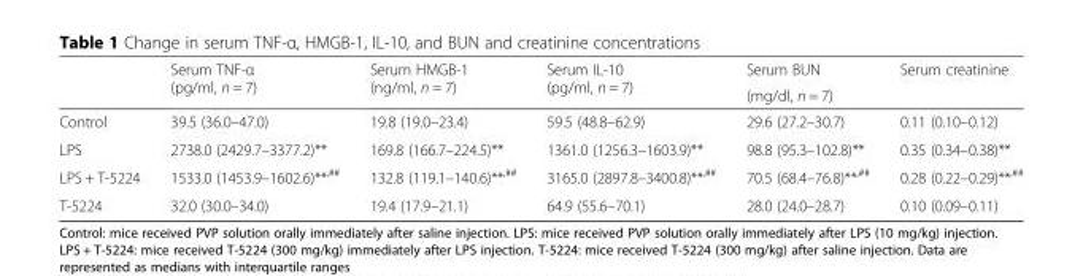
<table><thead><tr><td rowspan="2"></td><td rowspan="2">Serum TNF-α (pg/ml, n = 7)</td><td rowspan="2">Serum HMGB-1 (ng/ml, n = 7)</td><td rowspan="2">Serum IL-10 (pg/ml, n = 7)</td><td>Serum BUN</td><td>Serum creatinine</td></tr><tr><td colspan="2">(mg/dl, n = 7)</td></tr></thead><tbody><tr><td>Control</td><td>39.5 (36.0–47.0)</td><td>19.8 (19.0–23.4)</td><td>59.5 (48.8–62.9)</td><td>29.6 (27.2–30.7)</td><td>0.11 (0.10–0.12)</td></tr><tr><td>LPS</td><td>2738.0 (2429.7–3377.2)**</td><td>169.8 (166.7–224.5)**</td><td>1361.0 (1256.3–1603.9)**</td><td>98.8 (95.3–102.8)**</td><td>0.35 (0.34–0.38)**</td></tr><tr><td>LPS + T-5224</td><td>1533.0 (1453.9–1602.6)**<sup>,##</sup></td><td>132.8 (119.1–140.6)**<sup>,##</sup></td><td>3165.0 (2897.8–3400.8)**<sup>,##</sup></td><td>70.5 (68.4–76.8)**<sup>,##</sup></td><td>0.28 (0.22–0.29)**<sup>,##</sup></td></tr><tr><td>T-5224</td><td>32.0 (30.0–34.0)</td><td>19.4 (17.9–21.1)</td><td>64.9 (55.6–70.1)</td><td>28.0 (24.0–28.7)</td><td>0.10 (0.09–0.11)</td></tr></tbody></table>